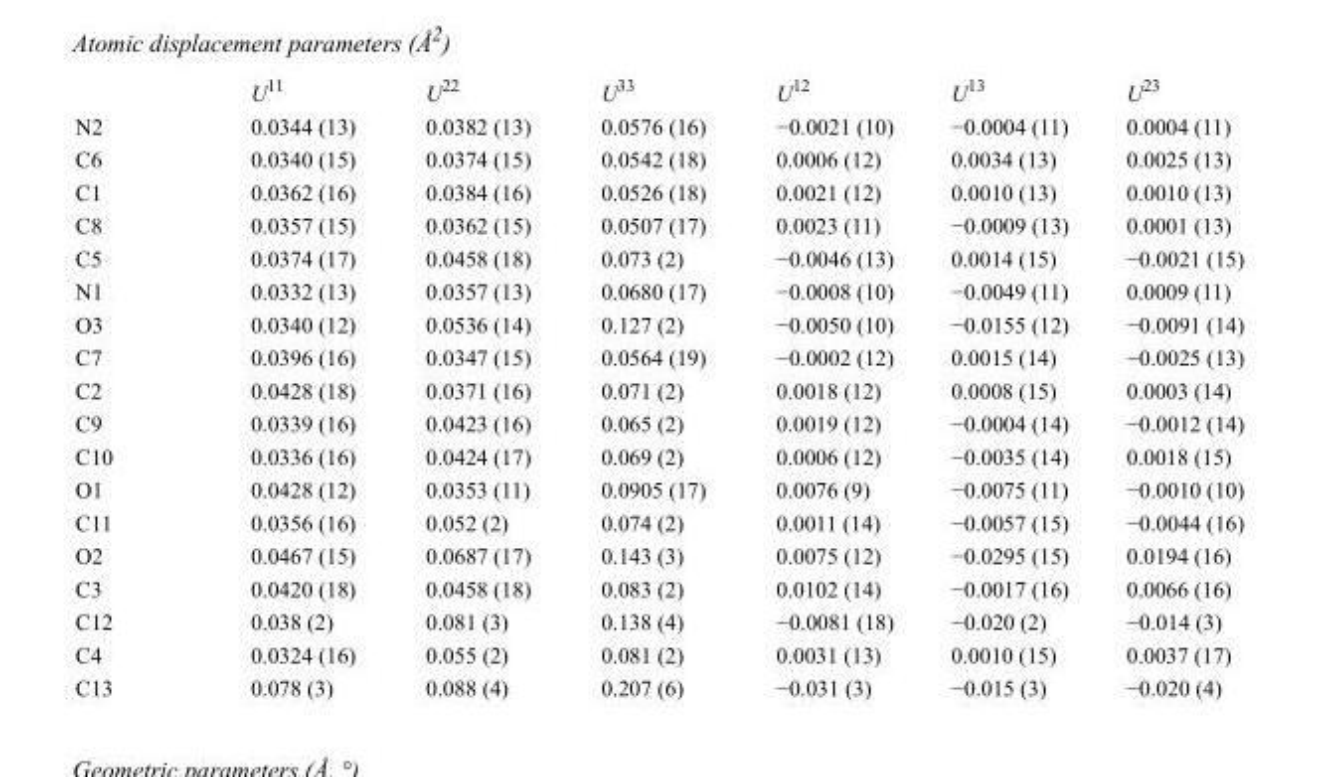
<table><thead><tr><td></td><td>U<sup>11</sup></td><td>U<sup>22</sup></td><td>U<sup>33</sup></td><td>U<sup>12</sup></td><td>U<sup>13</sup></td><td>U<sup>23</sup></td></tr></thead><tbody><tr><td>N2</td><td>0.0344 (13)</td><td>0.0382 (13)</td><td>0.0576 (16)</td><td>−0.0021 (10)</td><td>−0.0004 (11)</td><td>0.0004 (11)</td></tr><tr><td>C6</td><td>0.0340 (15)</td><td>0.0374 (15)</td><td>0.0542 (18)</td><td>0.0006 (12)</td><td>0.0034 (13)</td><td>0.0025 (13)</td></tr><tr><td>C1</td><td>0.0362 (16)</td><td>0.0384 (16)</td><td>0.0526 (18)</td><td>0.0021 (12)</td><td>0.0010 (13)</td><td>0.0010 (13)</td></tr><tr><td>C8</td><td>0.0357 (15)</td><td>0.0362 (15)</td><td>0.0507 (17)</td><td>0.0023 (11)</td><td>−0.0009 (13)</td><td>0.0001 (13)</td></tr><tr><td>C5</td><td>0.0374 (17)</td><td>0.0458 (18)</td><td>0.073 (2)</td><td>−0.0046 (13)</td><td>0.0014 (15)</td><td>−0.0021 (15)</td></tr><tr><td>N1</td><td>0.0332 (13)</td><td>0.0357 (13)</td><td>0.0680 (17)</td><td>−0.0008 (10)</td><td>−0.0049 (11)</td><td>0.0009 (11)</td></tr><tr><td>O3</td><td>0.0340 (12)</td><td>0.0536 (14)</td><td>0.127 (2)</td><td>−0.0050 (10)</td><td>−0.0155 (12)</td><td>−0.0091 (14)</td></tr><tr><td>C7</td><td>0.0396 (16)</td><td>0.0347 (15)</td><td>0.0564 (19)</td><td>−0.0002 (12)</td><td>0.0015 (14)</td><td>−0.0025 (13)</td></tr><tr><td>C2</td><td>0.0428 (18)</td><td>0.0371 (16)</td><td>0.071 (2)</td><td>0.0018 (12)</td><td>0.0008 (15)</td><td>0.0003 (14)</td></tr><tr><td>C9</td><td>0.0339 (16)</td><td>0.0423 (16)</td><td>0.065 (2)</td><td>0.0019 (12)</td><td>−0.0004 (14)</td><td>−0.0012 (14)</td></tr><tr><td>C10</td><td>0.0336 (16)</td><td>0.0424 (17)</td><td>0.069 (2)</td><td>0.0006 (12)</td><td>−0.0035 (14)</td><td>0.0018 (15)</td></tr><tr><td>O1</td><td>0.0428 (12)</td><td>0.0353 (11)</td><td>0.0905 (17)</td><td>0.0076 (9)</td><td>−0.0075 (11)</td><td>−0.0010 (10)</td></tr><tr><td>C11</td><td>0.0356 (16)</td><td>0.052 (2)</td><td>0.074 (2)</td><td>0.0011 (14)</td><td>−0.0057 (15)</td><td>−0.0044 (16)</td></tr><tr><td>O2</td><td>0.0467 (15)</td><td>0.0687 (17)</td><td>0.143 (3)</td><td>0.0075 (12)</td><td>−0.0295 (15)</td><td>0.0194 (16)</td></tr><tr><td>C3</td><td>0.0420 (18)</td><td>0.0458 (18)</td><td>0.083 (2)</td><td>0.0102 (14)</td><td>−0.0017 (16)</td><td>0.0066 (16)</td></tr><tr><td>C12</td><td>0.038 (2)</td><td>0.081 (3)</td><td>0.138 (4)</td><td>−0.0081 (18)</td><td>−0.020 (2)</td><td>−0.014 (3)</td></tr><tr><td>C4</td><td>0.0324 (16)</td><td>0.055 (2)</td><td>0.081 (2)</td><td>0.0031 (13)</td><td>0.0010 (15)</td><td>0.0037 (17)</td></tr><tr><td>C13</td><td>0.078 (3)</td><td>0.088 (4)</td><td>0.207 (6)</td><td>−0.031 (3)</td><td>−0.015 (3)</td><td>−0.020 (4)</td></tr></tbody></table>